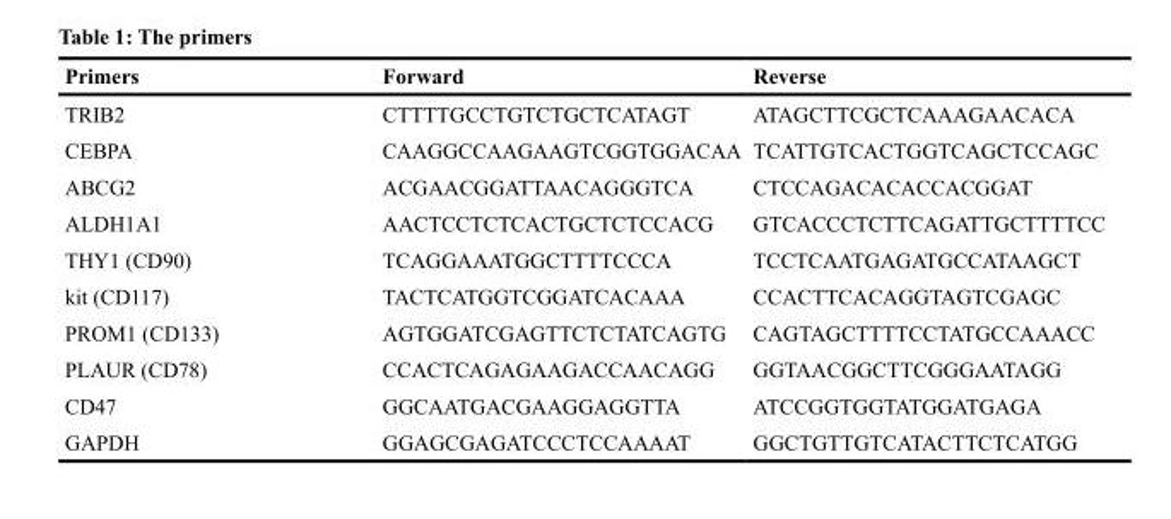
<table><thead><tr><td>Primers</td><td>Forward</td><td>Reverse</td></tr></thead><tbody><tr><td>TRIB2</td><td>CTTTTGCCTGTCTGCTCATAGT</td><td>ATAGCTTCGCTCAAAGAACACA</td></tr><tr><td>CEBPA</td><td>CAAGGCCAAGAAGTCGGTGGACAA</td><td>TCATTGTCACTGGTCAGCTCCAGC</td></tr><tr><td>ABCG2</td><td>ACGAACGGATTAACAGGGTCA</td><td>CTCCAGACACACCACGGAT</td></tr><tr><td>ALDH1A1</td><td>AACTCCTCTCACTGCTCTCCACG</td><td>GTCACCCTCTTCAGATTGCTTTTCC</td></tr><tr><td>THY1 (CD90)</td><td>TCAGGAAATGGCTTTTCCCA</td><td>TCCTCAATGAGATGCCATAAGCT</td></tr><tr><td>kit (CD117)</td><td>TACTCATGGTCGGATCACAAA</td><td>CCACTTCACAGGTAGTCGAGC</td></tr><tr><td>PROM1 (CD133)</td><td>AGTGGATCGAGTTCTCTATCAGTG</td><td>CAGTAGCTTTTCCTATGCCAAACC</td></tr><tr><td>PLAUR (CD78)</td><td>CCACTCAGAGAAGACCAACAGG</td><td>GGTAACGGCTTCGGGAATAGG</td></tr><tr><td>CD47</td><td>GGCAATGACGAAGGAGGTTA</td><td>ATCCGGTGGTATGGATGAGA</td></tr><tr><td>GAPDH</td><td>GGAGCGAGATCCCTCCAAAAT</td><td>GGCTGTTGTCATACTTCTCATGG</td></tr></tbody></table>